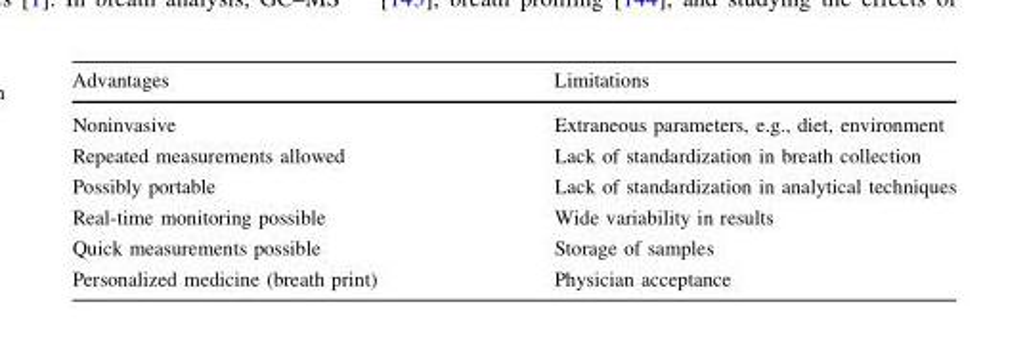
<table><thead><tr><td>Advantages</td><td>Limitations</td></tr></thead><tbody><tr><td>Noninvasive Repeated measurements allowed Possibly portable Real-time monitoring possible Quick measurements possible Personalized medicine (breath print)</td><td>Extraneous parameters, e.g., diet, environment Lack of standardization in breath collection Lack of standardization in analytical techniques Wide variability in results Storage of samples Physician acceptance</td></tr></tbody></table>